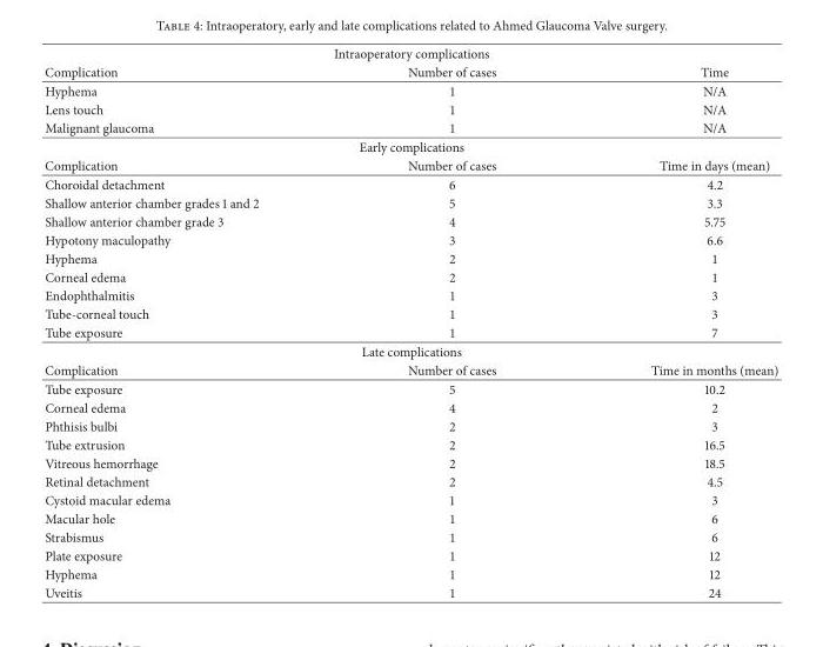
<table><thead><tr><td colspan="3">Intraoperatory complications</td></tr><tr><td>Complication</td><td>Number of cases</td><td>Time</td></tr></thead><tbody><tr><td>Hyphema</td><td>1</td><td>N/A</td></tr><tr><td>Lens touch</td><td>1</td><td>N/A</td></tr><tr><td>Malignant glaucoma</td><td>1</td><td>N/A</td></tr><tr><td colspan="3">Early complications</td></tr><tr><td>Complication</td><td>Number of cases</td><td>Time in days (mean)</td></tr><tr><td>Choroidal detachment</td><td>6</td><td>4.2</td></tr><tr><td>Shallow anterior chamber grades 1 and 2</td><td>5</td><td>3.3</td></tr><tr><td>Shallow anterior chamber grade 3</td><td>4</td><td>5.75</td></tr><tr><td>Hypotony maculopathy</td><td>3</td><td>6.6</td></tr><tr><td>Hyphema</td><td>2</td><td>1</td></tr><tr><td>Corneal edema</td><td>2</td><td>1</td></tr><tr><td>Endophthalmitis</td><td>1</td><td>3</td></tr><tr><td>Tube-corneal touch</td><td>1</td><td>3</td></tr><tr><td>Tube exposure</td><td>1</td><td>7</td></tr><tr><td colspan="3">Late complications</td></tr><tr><td>Complication</td><td>Number of cases</td><td>Time in months (mean)</td></tr><tr><td>Tube exposure</td><td>5</td><td>10.2</td></tr><tr><td>Corneal edema</td><td>4</td><td>2</td></tr><tr><td>Phthisis bulbi</td><td>2</td><td>3</td></tr><tr><td>Tube extrusion</td><td>2</td><td>16.5</td></tr><tr><td>Vitreous hemorrhage</td><td>2</td><td>18.5</td></tr><tr><td>Retinal detachment</td><td>2</td><td>4.5</td></tr><tr><td>Cystoid macular edema</td><td>1</td><td>3</td></tr><tr><td>Macular hole</td><td>1</td><td>6</td></tr><tr><td>Strabismus</td><td>1</td><td>6</td></tr><tr><td>Plate exposure</td><td>1</td><td>12</td></tr><tr><td>Hyphema</td><td>1</td><td>12</td></tr><tr><td>Uveitis</td><td>1</td><td>24</td></tr></tbody></table>